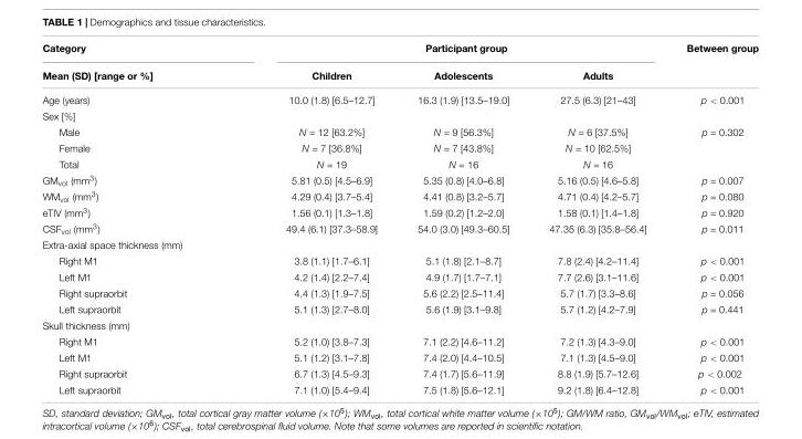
<table><thead><tr><td rowspan="3">Category Mean (SD) [range or %] Age (years)</td><td colspan="3">Participant group</td><td rowspan="3">Between group p &lt; 0.001</td></tr><tr><td rowspan="2">Children 10.0 (1.8) [6.5–12.7]</td><td rowspan="2">Adolescents 16.3 (1.9) [13.5–19.0]</td><td rowspan="2">Adults 27.5 (6.3) [21–43]</td></tr><tr></tr></thead><tbody><tr><td colspan="5">Sex [%]</td></tr><tr><td>Male</td><td>N = 12 [63.2%]</td><td>N = 9 [56.3%]</td><td>N = 6 [37.5%]</td><td>p = 0.302</td></tr><tr><td>Female</td><td>N = 7 [36.8%]</td><td>N = 7 [43.8%]</td><td>N = 10 [62.5%]</td><td></td></tr><tr><td>Total</td><td>N = 19</td><td>N = 16</td><td>N = 16</td><td></td></tr><tr><td>GM<sub>vol</sub> (mm<sup>3</sup>)</td><td>5.81 (0.5) [4.5–6.9]</td><td>5.35 (0.8) [4.0–6.8]</td><td>5.16 (0.5) [4.6–5.8]</td><td>p = 0.007</td></tr><tr><td>WM<sub>vol</sub> (mm<sup>3</sup>)</td><td>4.29 (0.4) [3.7–5.4]</td><td>4.41 (0.8) [3.2–5.7]</td><td>4.71 (0.4) [4.2–5.7]</td><td>p = 0.080</td></tr><tr><td>eTIV (mm<sup>3</sup>)</td><td>1.56 (0.1) [1.3–1.8]</td><td>1.59 (0.2) [1.2–2.0]</td><td>1.58 (0.1) [1.4–1.8]</td><td>p = 0.920</td></tr><tr><td>CSF<sub>vol</sub> (mm<sup>3</sup>)</td><td>49.4 (6.1) [37.3–58.9]</td><td>54.0 (3.0) [49.3–60.5]</td><td>47.35 (6.3) [35.8–56.4]</td><td>p = 0.011</td></tr><tr><td colspan="5">Extra-axial space thickness (mm)</td></tr><tr><td>Right M1</td><td>3.8 (1.1) [1.7–6.1]</td><td>5.1 (1.8) [2.1–8.7]</td><td>7.8 (2.4) [4.2–11.4]</td><td>p &lt; 0.001</td></tr><tr><td>Left M1</td><td>4.2 (1.4) [2.2–7.4]</td><td>4.9 (1.7) [1.7–7.1]</td><td>7.7 (2.6) [3.1–11.6]</td><td>p &lt; 0.001</td></tr><tr><td>Right supraorbit</td><td>4.4 (1.3) [1.9–7.5]</td><td>5.6 (2.2) [2.5–11.4]</td><td>5.7 (1.7) [3.3–8.6]</td><td>p = 0.056</td></tr><tr><td>Left supraorbit</td><td>5.1 (1.3) [2.7–8.0]</td><td>5.6 (1.9) [3.1–9.8]</td><td>5.7 (1.2) [4.2–7.9]</td><td>p = 0.441</td></tr><tr><td colspan="5">Skull thickness (mm)</td></tr><tr><td>Right M1</td><td>5.2 (1.0) [3.8–7.3]</td><td>7.1 (2.2) [4.6–11.2]</td><td>7.2 (1.3) [4.3–9.0]</td><td>p &lt; 0.001</td></tr><tr><td>Left M1</td><td>5.1 (1.2) [3.1–7.8]</td><td>7.4 (2.0) [4.4–10.5]</td><td>7.1 (1.3) [4.5–9.0]</td><td>p &lt; 0.001</td></tr><tr><td>Right supraorbit</td><td>6.7 (1.3) [4.5–9.3]</td><td>7.4 (1.7) [5.6–11.9]</td><td>8.8 (1.9) [5.7–12.6]</td><td>p &lt; 0.002</td></tr><tr><td>Left supraorbit</td><td>7.1 (1.0) [5.4–9.4]</td><td>7.5 (1.8) [5.6–12.1]</td><td>9.2 (1.8) [6.4–12.8]</td><td>p &lt; 0.001</td></tr></tbody></table>